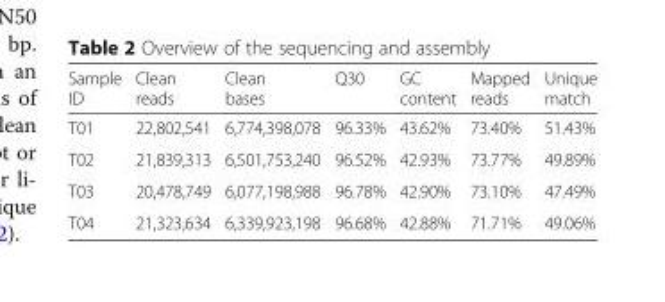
<table><thead><tr><td>Sample ID</td><td>Clean reads</td><td>Clean bases</td><td>Q30</td><td>GC content</td><td>Mapped reads</td><td>Unique match</td></tr></thead><tbody><tr><td>T01</td><td>22,802,541</td><td>6,774,398,078</td><td>96.33%</td><td>43.62%</td><td>73.40%</td><td>51.43%</td></tr><tr><td>T02</td><td>21,839,313</td><td>6,501,753,240</td><td>96.52%</td><td>42.93%</td><td>73.77%</td><td>49.89%</td></tr><tr><td>T03</td><td>20,478,749</td><td>6,077,198,988</td><td>96.78%</td><td>42.90%</td><td>73.10%</td><td>47.49%</td></tr><tr><td>T04</td><td>21,323,634</td><td>6,339,923,198</td><td>96.68%</td><td>42.88%</td><td>71.71%</td><td>49.06%</td></tr></tbody></table>